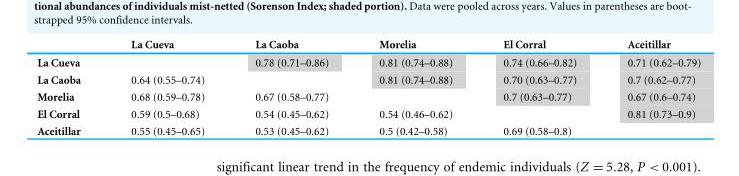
<table><thead><tr><td></td><td>La Cueva</td><td>La Caoba</td><td>Morelia</td><td>El Corral</td><td>Aceitillar</td></tr></thead><tbody><tr><td>La Cueva</td><td></td><td>0.78 (0.71–0.86)</td><td>0.81 (0.74–0.88)</td><td>0.74 (0.66–0.82)</td><td>0.71 (0.62–0.79)</td></tr><tr><td>La Caoba</td><td>0.64 (0.55–0.74)</td><td></td><td>0.81 (0.74–0.88)</td><td>0.70 (0.63–0.77)</td><td>0.7 (0.62–0.77)</td></tr><tr><td>Morelia</td><td>0.68 (0.59–0.78)</td><td>0.67 (0.58–0.77)</td><td></td><td>0.7 (0.63–0.77)</td><td>0.67 (0.6–0.74)</td></tr><tr><td>El Corral</td><td>0.59 (0.5–0.68)</td><td>0.54 (0.45–0.62)</td><td>0.54 (0.46–0.62)</td><td></td><td>0.81 (0.73–0.9)</td></tr><tr><td>Aceitillar</td><td>0.55 (0.45–0.65)</td><td>0.53 (0.45–0.62)</td><td>0.5 (0.42–0.58)</td><td>0.69 (0.58–0.8)</td><td></td></tr></tbody></table>